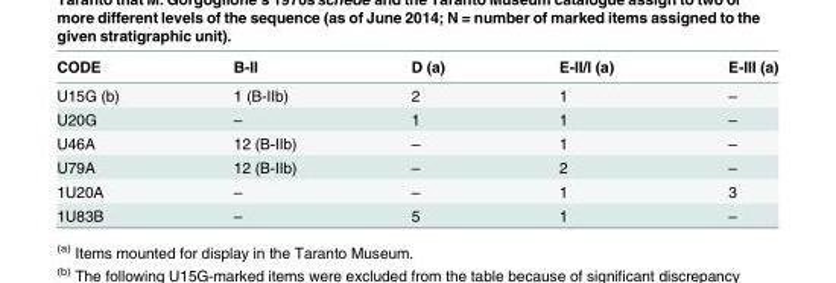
<table><thead><tr><td>CODE</td><td>B-II</td><td>D (a)</td><td>E-II/I (a)</td><td>E-III (a)</td></tr></thead><tbody><tr><td>U15G (b)</td><td>1 (B-IIb)</td><td>2</td><td>1</td><td>–</td></tr><tr><td>U20G</td><td>–</td><td>1</td><td>1</td><td>–</td></tr><tr><td>U46A</td><td>12 (B-IIb)</td><td>–</td><td>1</td><td>–</td></tr><tr><td>U79A</td><td>12 (B-IIb)</td><td>–</td><td>2</td><td>–</td></tr><tr><td>1U20A</td><td>–</td><td>–</td><td>1</td><td>3</td></tr><tr><td>1U83B</td><td>–</td><td>5</td><td>1</td><td>–</td></tr></tbody></table>